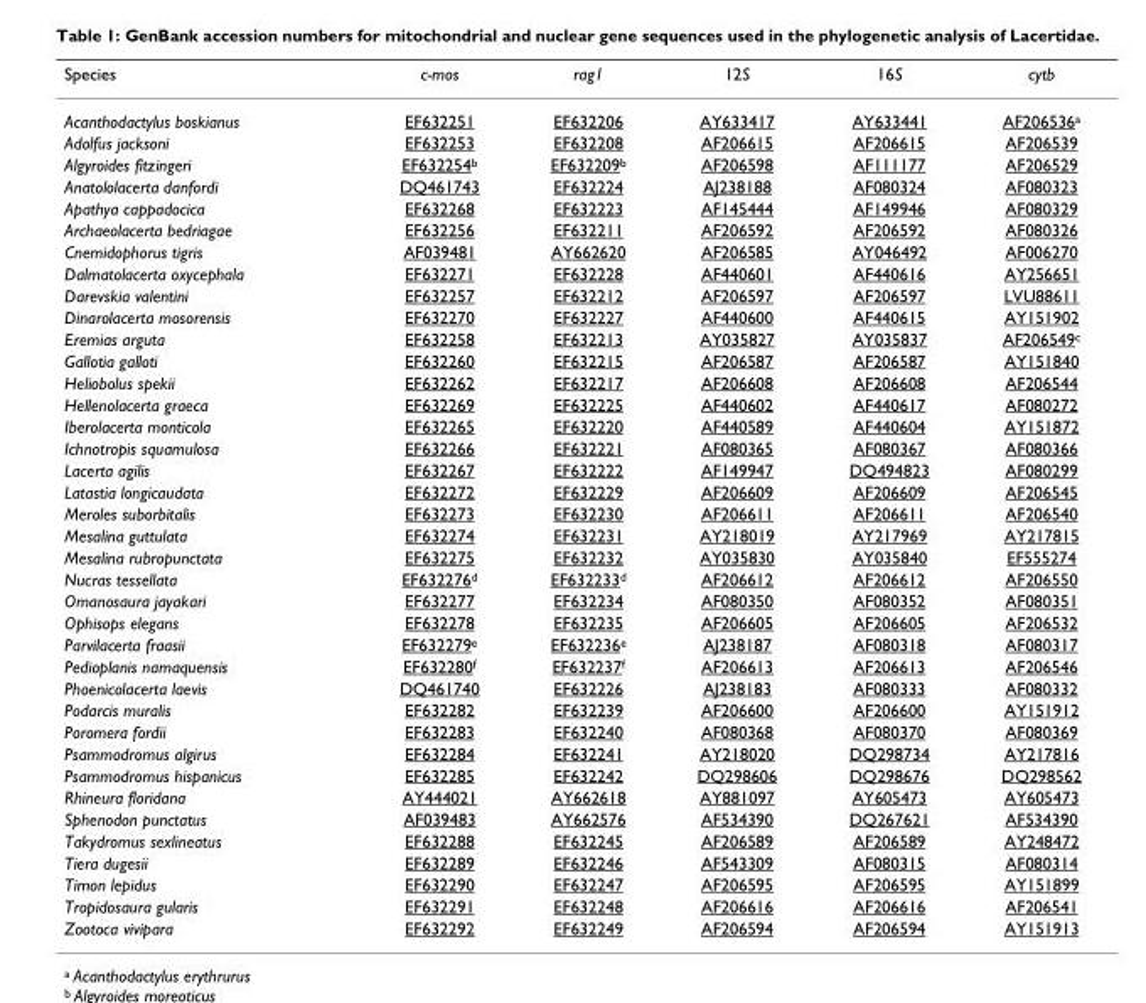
<table><thead><tr><td>Species</td><td>c-mos</td><td>rag1</td><td>12S</td><td>16S</td><td>cytb</td></tr></thead><tbody><tr><td>Acanthodactylus boskianus</td><td>EF632251</td><td>EF632206</td><td>AY633417</td><td>AY633441</td><td>AF206536<sup>a</sup></td></tr><tr><td>Adolfus jacksoni</td><td>EF632253</td><td>EF632208</td><td>AF206615</td><td>AF206615</td><td>AF206539</td></tr><tr><td>Algyroides fitzingeri</td><td>EF632254<sup>b</sup></td><td>EF632209<sup>b</sup></td><td>AF206598</td><td>AF111177</td><td>AF206529</td></tr><tr><td>Anatololacerta danfordi</td><td>DQ461743</td><td>EF632224</td><td>AJ238188</td><td>AF080324</td><td>AF080323</td></tr><tr><td>Apathya cappadocica</td><td>EF632268</td><td>EF632223</td><td>AF145444</td><td>AF149946</td><td>AF080329</td></tr><tr><td>Archaeolacerta bedriagae</td><td>EF632256</td><td>EF632211</td><td>AF206592</td><td>AF206592</td><td>AF080326</td></tr><tr><td>Cnemidophorus tigris</td><td>AF039481</td><td>AY662620</td><td>AF206585</td><td>AY046492</td><td>AF006270</td></tr><tr><td>Dalmatolacerta oxycephala</td><td>EF632271</td><td>EF632228</td><td>AF440601</td><td>AF440616</td><td>AY256651</td></tr><tr><td>Darevskia valentini</td><td>EF632257</td><td>EF632212</td><td>AF206597</td><td>AF206597</td><td>LVU88611</td></tr><tr><td>Dinarolacerta mosorensis</td><td>EF632270</td><td>EF632227</td><td>AF440600</td><td>AF440615</td><td>AY151902</td></tr><tr><td>Eremias arguta</td><td>EF632258</td><td>EF632213</td><td>AY035827</td><td>AY035837</td><td>AF206549<sup>c</sup></td></tr><tr><td>Gallotia galloti</td><td>EF632260</td><td>EF632215</td><td>AF206587</td><td>AF206587</td><td>AY151840</td></tr><tr><td>Heliobolus spekii</td><td>EF632262</td><td>EF632217</td><td>AF206608</td><td>AF206608</td><td>AF206544</td></tr><tr><td>Hellenolacerta graeca</td><td>EF632269</td><td>EF632225</td><td>AF440602</td><td>AF440617</td><td>AF080272</td></tr><tr><td>Iberolacerta monticola</td><td>EF632265</td><td>EF632220</td><td>AF440589</td><td>AF440604</td><td>AY151872</td></tr><tr><td>Ichnotropis squamulosa</td><td>EF632266</td><td>EF632221</td><td>AF080365</td><td>AF080367</td><td>AF080366</td></tr><tr><td>Lacerta agilis</td><td>EF632267</td><td>EF632222</td><td>AF149947</td><td>DQ494823</td><td>AF080299</td></tr><tr><td>Latastia longicaudata</td><td>EF632272</td><td>EF632229</td><td>AF206609</td><td>AF206609</td><td>AF206545</td></tr><tr><td>Meroles suborbitalis</td><td>EF632273</td><td>EF632230</td><td>AF206611</td><td>AF206611</td><td>AF206540</td></tr><tr><td>Mesalina guttulata</td><td>EF632274</td><td>EF632231</td><td>AY218019</td><td>AY217969</td><td>AY217815</td></tr><tr><td>Mesalina rubropunctata</td><td>EF632275</td><td>EF632232</td><td>AY035830</td><td>AY035840</td><td>EF555274</td></tr><tr><td>Nucras tessellata</td><td>EF632276<sup>d</sup></td><td>EF632233<sup>d</sup></td><td>AF206612</td><td>AF206612</td><td>AF206550</td></tr><tr><td>Omanosaura jayakari</td><td>EF632277</td><td>EF632234</td><td>AF080350</td><td>AF080352</td><td>AF080351</td></tr><tr><td>Ophisops elegans</td><td>EF632278</td><td>EF632235</td><td>AF206605</td><td>AF206605</td><td>AF206532</td></tr><tr><td>Parvilacerta fraasii</td><td>EF632279<sup>e</sup></td><td>EF632236<sup>e</sup></td><td>AJ238187</td><td>AF080318</td><td>AF080317</td></tr><tr><td>Pedioplanis namaquensis</td><td>EF632280<sup>f</sup></td><td>EF632237<sup>f</sup></td><td>AF206613</td><td>AF206613</td><td>AF206546</td></tr><tr><td>Phoenicolacerta laevis</td><td>DQ461740</td><td>EF632226</td><td>AJ238183</td><td>AF080333</td><td>AF080332</td></tr><tr><td>Podarcis muralis</td><td>EF632282</td><td>EF632239</td><td>AF206600</td><td>AF206600</td><td>AY151912</td></tr><tr><td>Poromera fordii</td><td>EF632283</td><td>EF632240</td><td>AF080368</td><td>AF080370</td><td>AF080369</td></tr><tr><td>Psammodromus algirus</td><td>EF632284</td><td>EF632241</td><td>AY218020</td><td>DQ298734</td><td>AY217816</td></tr><tr><td>Psammodromus hispanicus</td><td>EF632285</td><td>EF632242</td><td>DQ298606</td><td>DQ298676</td><td>DQ298562</td></tr><tr><td>Rhineura floridana</td><td>AY444021</td><td>AY662618</td><td>AY881097</td><td>AY605473</td><td>AY605473</td></tr><tr><td>Sphenodon punctatus</td><td>AF039483</td><td>AY662576</td><td>AF534390</td><td>DQ267621</td><td>AF534390</td></tr><tr><td>Takydromus sexlineatus</td><td>EF632288</td><td>EF632245</td><td>AF206589</td><td>AF206589</td><td>AY248472</td></tr><tr><td>Tiera dugesii</td><td>EF632289</td><td>EF632246</td><td>AF543309</td><td>AF080315</td><td>AF080314</td></tr><tr><td>Timon lepidus</td><td>EF632290</td><td>EF632247</td><td>AF206595</td><td>AF206595</td><td>AY151899</td></tr><tr><td>Tropidosaura gularis</td><td>EF632291</td><td>EF632248</td><td>AF206616</td><td>AF206616</td><td>AF206541</td></tr><tr><td>Zootoca vivipara</td><td>EF632292</td><td>EF632249</td><td>AF206594</td><td>AF206594</td><td>AY151913</td></tr></tbody></table>